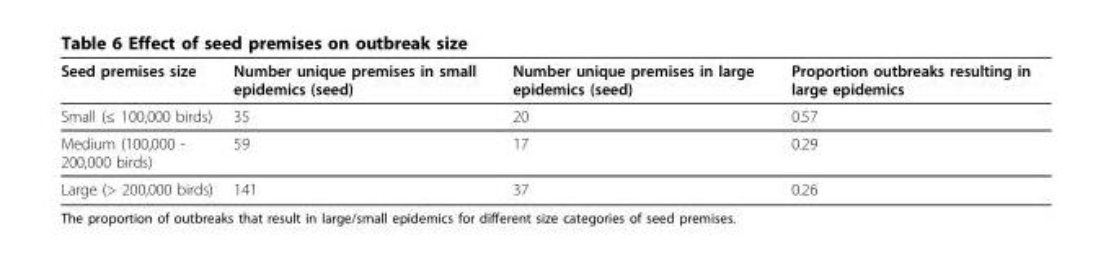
<table><thead><tr><td>Seed premises size</td><td>Number unique premises in small epidemics (seed)</td><td>Number unique premises in large epidemics (seed)</td><td>Proportion outbreaks resulting in large epidemics</td></tr></thead><tbody><tr><td>Small (≤ 100,000 birds)</td><td>35</td><td>20</td><td>0.57</td></tr><tr><td>Medium (100,000 - 200,000 birds)</td><td>59</td><td>17</td><td>0.29</td></tr><tr><td>Large (&gt; 200,000 birds)</td><td>141</td><td>37</td><td>0.26</td></tr></tbody></table>